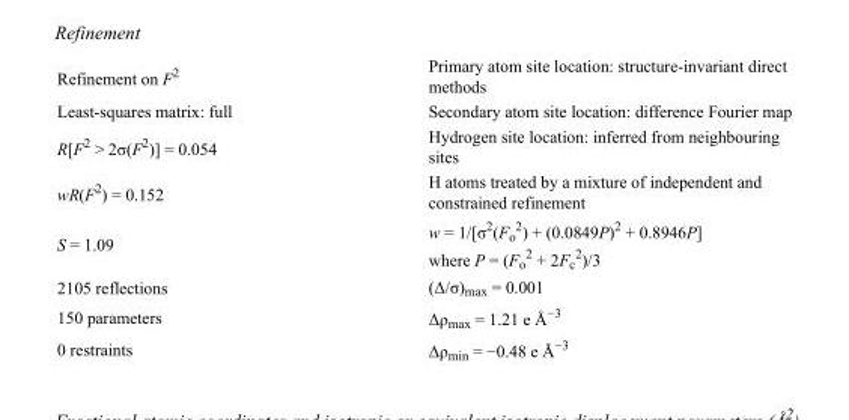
<table><tbody><tr><td>Refinement on F<sup>2</sup></td><td>Primary atom site location: structure-invariant direct methods</td></tr><tr><td>Least-squares matrix: full</td><td>Secondary atom site location: difference Fourier map</td></tr><tr><td>R[F<sup>2</sup> &gt; 2σ(F<sup>2</sup>)] = 0.054</td><td>Hydrogen site location: inferred from neighbouring sites</td></tr><tr><td>wR(F<sup>2</sup>) = 0.152</td><td>H atoms treated by a mixture of independent and constrained refinement</td></tr><tr><td>S = 1.09</td><td>w = 1/[σ<sup>2</sup>(F<sub>o</sub> <sup>2</sup>) + (0.0849P)<sup>2</sup> + 0.8946P] where P = (F<sub>o</sub> <sup>2</sup> + 2F<sub>c</sub> <sup>2</sup>)/3</td></tr><tr><td>2105 reflections</td><td>(Δ/σ)<sub>max</sub> = 0.001</td></tr><tr><td>150 parameters</td><td>Δρ<sub>max</sub> = 1.21 e Å<sup>−3</sup></td></tr><tr><td>0 restraints</td><td>Δρ<sub>min</sub> = −0.48 e Å<sup>−3</sup></td></tr></tbody></table>